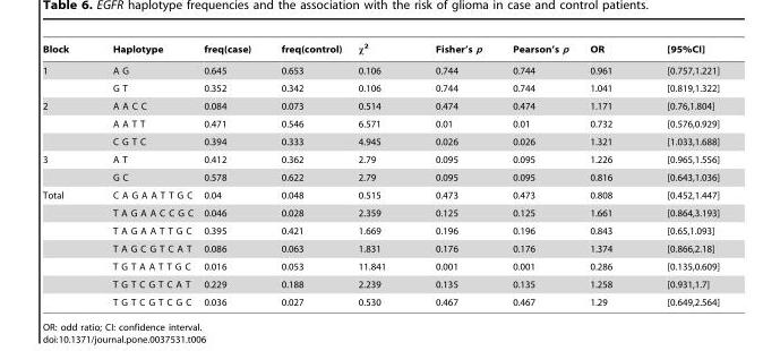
<table><thead><tr><td>Block</td><td>Haplotype</td><td>freq(case)</td><td>freq(control)</td><td>χ<sup>2</sup></td><td>Fisher’s p</td><td>Pearson’s p</td><td>OR</td><td>[95%CI]</td></tr></thead><tbody><tr><td rowspan="2">1</td><td>A G</td><td>0.645</td><td>0.653</td><td>0.106</td><td>0.744</td><td>0.744</td><td>0.961</td><td>[0.757,1.221]</td></tr><tr><td>G T</td><td>0.352</td><td>0.342</td><td>0.106</td><td>0.744</td><td>0.744</td><td>1.041</td><td>[0.819,1.322]</td></tr><tr><td rowspan="3">2</td><td>A A C C</td><td>0.084</td><td>0.073</td><td>0.514</td><td>0.474</td><td>0.474</td><td>1.171</td><td>[0.76,1.804]</td></tr><tr><td>A A T T</td><td>0.471</td><td>0.546</td><td>6.571</td><td>0.01</td><td>0.01</td><td>0.732</td><td>[0.576,0.929]</td></tr><tr><td>C G T C</td><td>0.394</td><td>0.333</td><td>4.945</td><td>0.026</td><td>0.026</td><td>1.321</td><td>[1.033,1.688]</td></tr><tr><td rowspan="2">3</td><td>A T</td><td>0.412</td><td>0.362</td><td>2.79</td><td>0.095</td><td>0.095</td><td>1.226</td><td>[0.965,1.556]</td></tr><tr><td>G C</td><td>0.578</td><td>0.622</td><td>2.79</td><td>0.095</td><td>0.095</td><td>0.816</td><td>[0.643,1.036]</td></tr><tr><td rowspan="7">Total</td><td>C A G A A T T G C</td><td>0.04</td><td>0.048</td><td>0.515</td><td>0.473</td><td>0.473</td><td>0.808</td><td>[0.452,1.447]</td></tr><tr><td>T A G A A C C G C</td><td>0.046</td><td>0.028</td><td>2.359</td><td>0.125</td><td>0.125</td><td>1.661</td><td>[0.864,3.193]</td></tr><tr><td>T A G A A T T G C</td><td>0.395</td><td>0.421</td><td>1.669</td><td>0.196</td><td>0.196</td><td>0.843</td><td>[0.65,1.093]</td></tr><tr><td>T A G C G T C A T</td><td>0.086</td><td>0.063</td><td>1.831</td><td>0.176</td><td>0.176</td><td>1.374</td><td>[0.866,2.18]</td></tr><tr><td>T G T A A T T G C</td><td>0.016</td><td>0.053</td><td>11.841</td><td>0.001</td><td>0.001</td><td>0.286</td><td>[0.135,0.609]</td></tr><tr><td>T G T C G T C A T</td><td>0.229</td><td>0.188</td><td>2.239</td><td>0.135</td><td>0.135</td><td>1.258</td><td>[0.931,1.7]</td></tr><tr><td>T G T C G T C G C</td><td>0.036</td><td>0.027</td><td>0.530</td><td>0.467</td><td>0.467</td><td>1.29</td><td>[0.649,2.564]</td></tr></tbody></table>